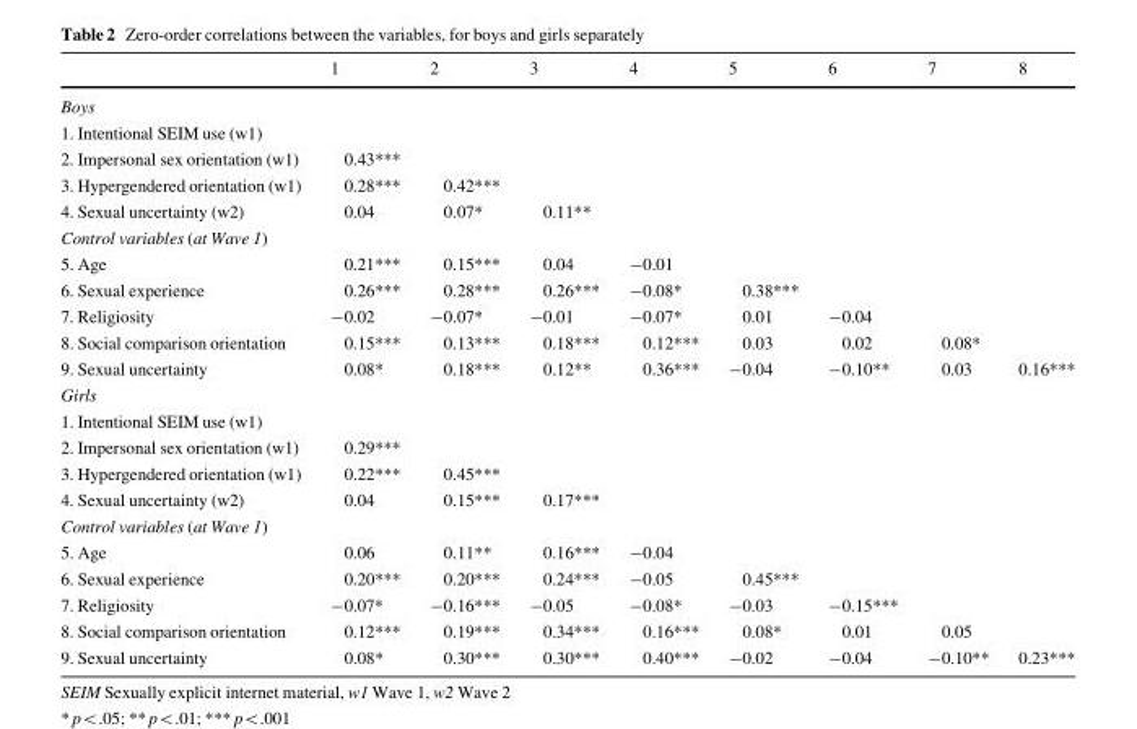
<table><thead><tr><td></td><td>1</td><td>2</td><td>3</td><td>4</td><td>5</td><td>6</td><td>7</td><td>8</td></tr></thead><tbody><tr><td colspan="9">Boys</td></tr><tr><td colspan="9">1. Intentional SEIM use (w1)</td></tr><tr><td>2. Impersonal sex orientation (w1)</td><td>0.43***</td><td></td><td></td><td></td><td></td><td></td><td></td><td></td></tr><tr><td>3. Hypergendered orientation (w1)</td><td>0.28***</td><td>0.42***</td><td></td><td></td><td></td><td></td><td></td><td></td></tr><tr><td>4. Sexual uncertainty (w2)</td><td>0.04</td><td>0.07*</td><td>0.11**</td><td></td><td></td><td></td><td></td><td></td></tr><tr><td colspan="9">Control variables (at Wave 1)</td></tr><tr><td>5. Age</td><td>0.21***</td><td>0.15***</td><td>0.04</td><td>-0.01</td><td></td><td></td><td></td><td></td></tr><tr><td>6. Sexual experience</td><td>0.26***</td><td>0.28***</td><td>0.26***</td><td>-0.08*</td><td>0.38***</td><td></td><td></td><td></td></tr><tr><td>7. Religiosity</td><td>-0.02</td><td>-0.07*</td><td>-0.01</td><td>-0.07*</td><td>0.01</td><td>-0.04</td><td></td><td></td></tr><tr><td>8. Social comparison orientation</td><td>0.15***</td><td>0.13***</td><td>0.18***</td><td>0.12***</td><td>0.03</td><td>0.02</td><td>0.08*</td><td></td></tr><tr><td>9. Sexual uncertainty</td><td>0.08*</td><td>0.18***</td><td>0.12**</td><td>0.36***</td><td>-0.04</td><td>-0.10**</td><td>0.03</td><td>0.16***</td></tr><tr><td colspan="9">Girls</td></tr><tr><td colspan="9">1. Intentional SEIM use (w1)</td></tr><tr><td>2. Impersonal sex orientation (w1)</td><td>0.29***</td><td></td><td></td><td></td><td></td><td></td><td></td><td></td></tr><tr><td>3. Hypergendered orientation (w1)</td><td>0.22***</td><td>0.45***</td><td></td><td></td><td></td><td></td><td></td><td></td></tr><tr><td>4. Sexual uncertainty (w2)</td><td>0.04</td><td>0.15***</td><td>0.17***</td><td></td><td></td><td></td><td></td><td></td></tr><tr><td colspan="9">Control variables (at Wave 1)</td></tr><tr><td>5. Age</td><td>0.06</td><td>0.11**</td><td>0.16***</td><td>-0.04</td><td></td><td></td><td></td><td></td></tr><tr><td>6. Sexual experience</td><td>0.20***</td><td>0.20***</td><td>0.24***</td><td>-0.05</td><td>0.45***</td><td></td><td></td><td></td></tr><tr><td>7. Religiosity</td><td>-0.07*</td><td>-0.16***</td><td>-0.05</td><td>-0.08*</td><td>-0.03</td><td>-0.15***</td><td></td><td></td></tr><tr><td>8. Social comparison orientation</td><td>0.12***</td><td>0.19***</td><td>0.34***</td><td>0.16***</td><td>0.08*</td><td>0.01</td><td>0.05</td><td></td></tr><tr><td>9. Sexual uncertainty</td><td>0.08*</td><td>0.30***</td><td>0.30***</td><td>0.40***</td><td>-0.02</td><td>-0.04</td><td>-0.10**</td><td>0.23***</td></tr></tbody></table>